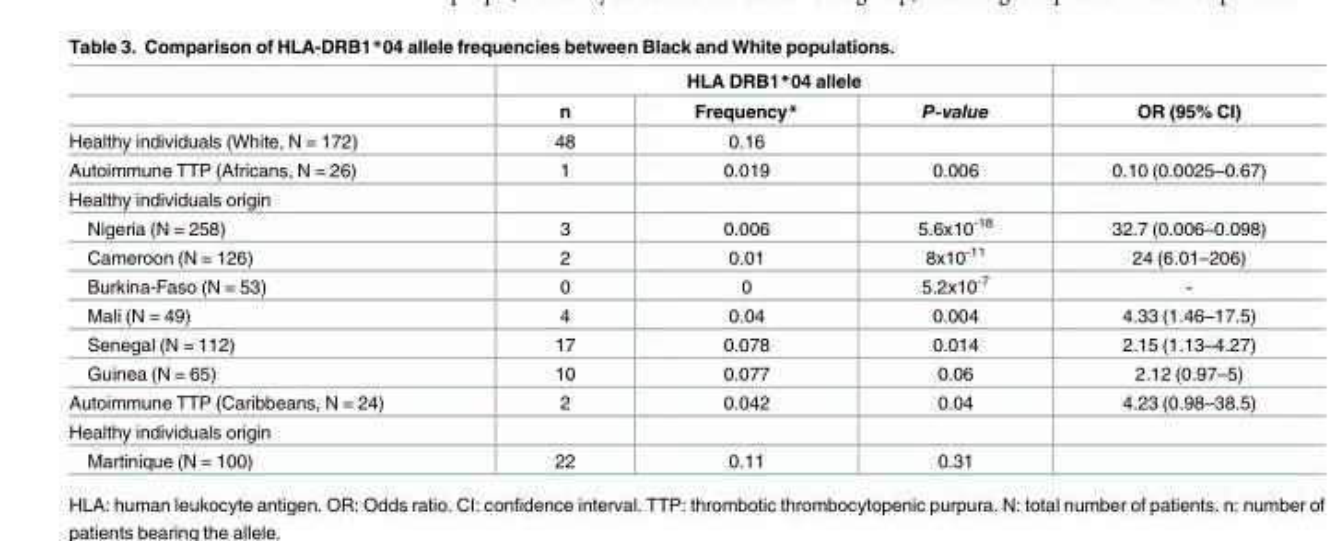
<table><thead><tr><td rowspan="2"></td><td colspan="3">HLA DRB1*04 allele</td><td rowspan="2">OR (95% CI)</td></tr><tr><td>n</td><td>Frequency*</td><td>P-value</td></tr></thead><tbody><tr><td>Healthy individuals (White, N = 172)</td><td>48</td><td>0.16</td><td></td><td></td></tr><tr><td>Autoimmune TTP (Africans, N = 26)</td><td>1</td><td>0.019</td><td>0.006</td><td>0.10 (0.0025–0.67)</td></tr><tr><td colspan="5">Healthy individuals origin</td></tr><tr><td>Nigeria (N = 258)</td><td>3</td><td>0.006</td><td>5.6x10<sup>-18</sup></td><td>32.7 (0.006–0.098)</td></tr><tr><td>Cameroon (N = 126)</td><td>2</td><td>0.01</td><td>8x10<sup>-11</sup></td><td>24 (6.01–206)</td></tr><tr><td>Burkina-Faso (N = 53)</td><td>0</td><td>0</td><td>5.2x10<sup>-7</sup></td><td>-</td></tr><tr><td>Mali (N = 49)</td><td>4</td><td>0.04</td><td>0.004</td><td>4.33 (1.46–17.5)</td></tr><tr><td>Senegal (N = 112)</td><td>17</td><td>0.078</td><td>0.014</td><td>2.15 (1.13–4.27)</td></tr><tr><td>Guinea (N = 65)</td><td>10</td><td>0.077</td><td>0.06</td><td>2.12 (0.97–5)</td></tr><tr><td>Autoimmune TTP (Caribbeans, N = 24)</td><td>2</td><td>0.042</td><td>0.04</td><td>4.23 (0.98–38.5)</td></tr><tr><td colspan="5">Healthy individuals origin</td></tr><tr><td>Martinique (N = 100)</td><td>22</td><td>0.11</td><td>0.31</td><td></td></tr></tbody></table>